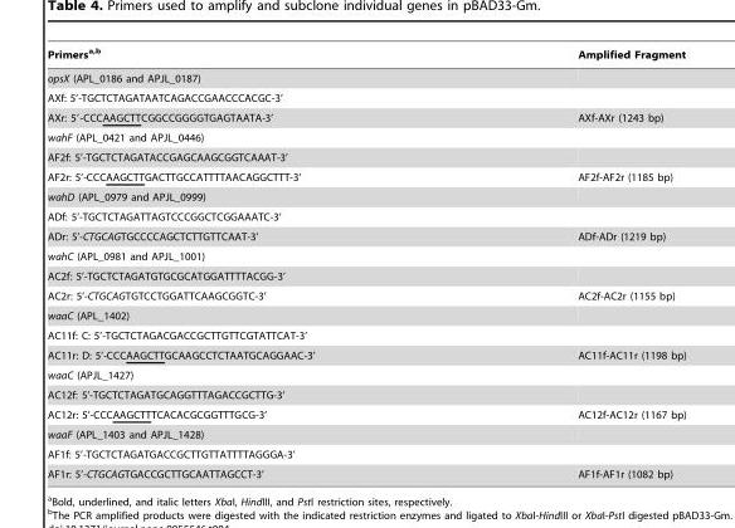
<table><thead><tr><td>Primersa,b</td><td>Amplified Fragment</td></tr></thead><tbody><tr><td colspan="2">opsX (APL_0186 and APJL_0187)</td></tr><tr><td colspan="2">AXf: 5’-TGCTCTAGATAATCAGACCGAACCCACGC-3’</td></tr><tr><td>AXr: 5′-CCCAAGCTTCGGCCGGGGTGAGTAATA-3’</td><td>AXf-AXr (1243 bp)</td></tr><tr><td colspan="2">wahF (APL_0421 and APJL_0446)</td></tr><tr><td colspan="2">AF2f: 5’-TGCTCTAGATACCGAGCAAGCGGTCAAAT-3’</td></tr><tr><td>AF2r: 5’-CCCAAGCTTGACTTGCCATTTTAACAGGCTTT-3’</td><td>AF2f-AF2r (1185 bp)</td></tr><tr><td colspan="2">wahD (APL_0979 and APJL_0999)</td></tr><tr><td colspan="2">ADf: 5’-TGCTCTAGATTAGTCCCGGCTCGGAAATC-3’</td></tr><tr><td>ADr: 5’-CTGCAGTGCCCCAGCTCTTGTTCAAT-3’</td><td>ADf-ADr (1219 bp)</td></tr><tr><td colspan="2">wahC (APL_0981 and APJL_1001)</td></tr><tr><td colspan="2">AC2f: 5’-TGCTCTAGATGTGCGCATGGATTTTACGG-3’</td></tr><tr><td>AC2r: 5’-CTGCAGTGTCCTGGATTCAAGCGGTC-3’</td><td>AC2f-AC2r (1155 bp)</td></tr><tr><td colspan="2">waaC (APL_1402)</td></tr><tr><td colspan="2">AC11f: C: 5’-TGCTCTAGACGACCGCTTGTTCGTATTCAT-3’</td></tr><tr><td>AC11r: D: 5’-CCCAAGCTTGCAAGCCTCTAATGCAGGAAC-3’</td><td>AC11f-AC11r (1198 bp)</td></tr><tr><td colspan="2">waaC (APJL_1427)</td></tr><tr><td colspan="2">AC12f: 5’-TGCTCTAGATGCAGGTTTAGACCGCTTG-3’</td></tr><tr><td>AC12r: 5’-CCCAAGCTTTCACACGCGGTTTGCG-3’</td><td>AC12f-AC12r (1167 bp)</td></tr><tr><td colspan="2">waaF (APL_1403 and APJL_1428)</td></tr><tr><td colspan="2">AF1f: 5’-TGCTCTAGATGACCGCTTGTTATTTTAGGGA-3’</td></tr><tr><td>AF1r: 5’-CTGCAGTGACCGCTTGCAATTAGCCT-3’</td><td>AF1f-AF1r (1082 bp)</td></tr></tbody></table>